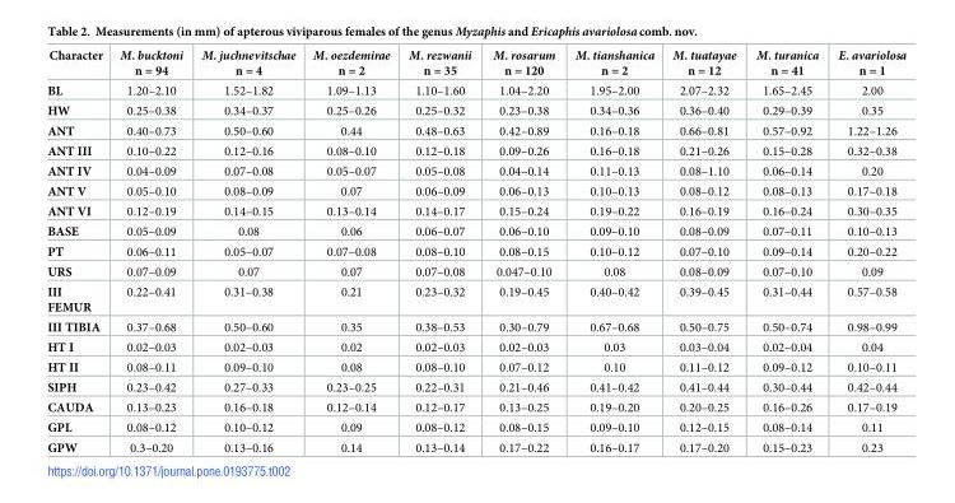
<table><thead><tr><td>Character</td><td>M. bucktoni n = 94</td><td>M. juchnevitschae n = 4</td><td>M. oezdemirae n = 2</td><td>M. rezwanii n = 35</td><td>M. rosarum n = 120</td><td>M. tianshanica n = 2</td><td>M. tuatayae n = 12</td><td>M. turanica n = 41</td><td>E. avariolosa n = 1</td></tr></thead><tbody><tr><td>BL</td><td>1.20–2.10</td><td>1.52–1.82</td><td>1.09–1.13</td><td>1.10–1.60</td><td>1.04–2.20</td><td>1.95–2.00</td><td>2.07–2.32</td><td>1.65–2.45</td><td>2.00</td></tr><tr><td>HW</td><td>0.25–0.38</td><td>0.34–0.37</td><td>0.25–0.26</td><td>0.25–0.32</td><td>0.23–0.38</td><td>0.34–0.36</td><td>0.36–0.40</td><td>0.29–0.39</td><td>0.35</td></tr><tr><td>ANT</td><td>0.40–0.73</td><td>0.50–0.60</td><td>0.44</td><td>0.48–0.63</td><td>0.42–0.89</td><td>0.16–0.18</td><td>0.66–0.81</td><td>0.57–0.92</td><td>1.22–1.26</td></tr><tr><td>ANT III</td><td>0.10–0.22</td><td>0.12–0.16</td><td>0.08–0.10</td><td>0.12–0.18</td><td>0.09–0.26</td><td>0.16–0.18</td><td>0.21–0.26</td><td>0.15–0.28</td><td>0.32–0.38</td></tr><tr><td>ANT IV</td><td>0.04–0.09</td><td>0.07–0.08</td><td>0.05–0.07</td><td>0.05–0.08</td><td>0.04–0.14</td><td>0.11–0.13</td><td>0.08–1.10</td><td>0.06–0.14</td><td>0.20</td></tr><tr><td>ANT V</td><td>0.05–0.10</td><td>0.08–0.09</td><td>0.07</td><td>0.06–0.09</td><td>0.06–0.13</td><td>0.10–0.13</td><td>0.08–0.12</td><td>0.08–0.13</td><td>0.17–0.18</td></tr><tr><td>ANT VI</td><td>0.12–0.19</td><td>0.14–0.15</td><td>0.13–0.14</td><td>0.14–0.17</td><td>0.15–0.24</td><td>0.19–0.22</td><td>0.16–0.19</td><td>0.16–0.24</td><td>0.30–0.35</td></tr><tr><td>BASE</td><td>0.05–0.09</td><td>0.08</td><td>0.06</td><td>0.06–0.07</td><td>0.06–0.10</td><td>0.09–0.10</td><td>0.08–0.09</td><td>0.07–0.11</td><td>0.10–0.13</td></tr><tr><td>PT</td><td>0.06–0.11</td><td>0.05–0.07</td><td>0.07–0.08</td><td>0.08–0.10</td><td>0.08–0.15</td><td>0.10–0.12</td><td>0.07–0.10</td><td>0.09–0.14</td><td>0.20–0.22</td></tr><tr><td>URS</td><td>0.07–0.09</td><td>0.07</td><td>0.07</td><td>0.07–0.08</td><td>0.047–0.10</td><td>0.08</td><td>0.08–0.09</td><td>0.07–0.10</td><td>0.09</td></tr><tr><td>III FEMUR</td><td>0.22–0.41</td><td>0.31–0.38</td><td>0.21</td><td>0.23–0.32</td><td>0.19–0.45</td><td>0.40–0.42</td><td>0.39–0.45</td><td>0.31–0.44</td><td>0.57–0.58</td></tr><tr><td>III TIBIA</td><td>0.37–0.68</td><td>0.50–0.60</td><td>0.35</td><td>0.38–0.53</td><td>0.30–0.79</td><td>0.67–0.68</td><td>0.50–0.75</td><td>0.50–0.74</td><td>0.98–0.99</td></tr><tr><td>HT I</td><td>0.02–0.03</td><td>0.02–0.03</td><td>0.02</td><td>0.02–0.03</td><td>0.02–0.03</td><td>0.03</td><td>0.03–0.04</td><td>0.02–0.04</td><td>0.04</td></tr><tr><td>HT II</td><td>0.08–0.11</td><td>0.09–0.10</td><td>0.08</td><td>0.08–0.10</td><td>0.07–0.12</td><td>0.10</td><td>0.11–0.12</td><td>0.09–0.12</td><td>0.10–0.11</td></tr><tr><td>SIPH</td><td>0.23–0.42</td><td>0.27–0.33</td><td>0.23–0.25</td><td>0.22–0.31</td><td>0.21–0.46</td><td>0.41–0.42</td><td>0.41–0.44</td><td>0.30–0.44</td><td>0.42–0.44</td></tr><tr><td>CAUDA</td><td>0.13–0.23</td><td>0.16–0.18</td><td>0.12–0.14</td><td>0.12–0.17</td><td>0.13–0.25</td><td>0.19–0.20</td><td>0.20–0.25</td><td>0.16–0.26</td><td>0.17–0.19</td></tr><tr><td>GPL</td><td>0.08–0.12</td><td>0.10–0.12</td><td>0.09</td><td>0.08–0.12</td><td>0.08–0.15</td><td>0.09–0.10</td><td>0.12–0.15</td><td>0.08–0.14</td><td>0.11</td></tr><tr><td>GPW</td><td>0.3–0.20</td><td>0.13–0.16</td><td>0.14</td><td>0.13–0.14</td><td>0.17–0.22</td><td>0.16–0.17</td><td>0.17–0.20</td><td>0.15–0.23</td><td>0.23</td></tr></tbody></table>